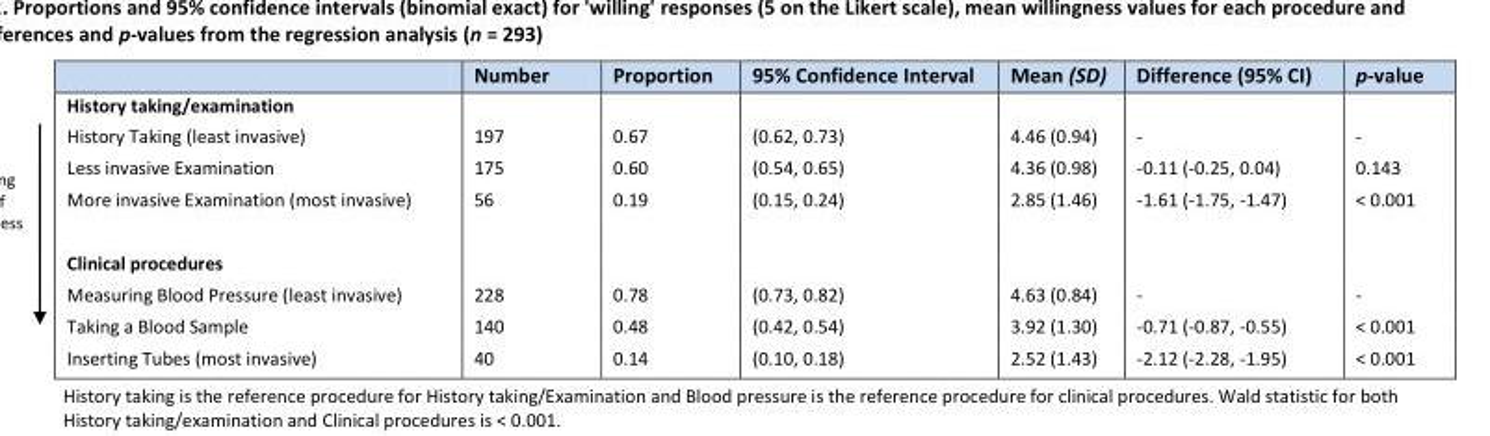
<table><thead><tr><td></td><td>Number</td><td>Proportion</td><td>95% Confidence Interval</td><td>Mean (SD)</td><td>Difference (95% CI)</td><td>p-value</td></tr></thead><tbody><tr><td colspan="7">History taking/examination</td></tr><tr><td>History Taking (least invasive)</td><td>197</td><td>0.67</td><td>(0.62, 0.73)</td><td>4.46 (0.94)</td><td>-</td><td>-</td></tr><tr><td>Less invasive Examination</td><td>175</td><td>0.60</td><td>(0.54, 0.65)</td><td>4.36 (0.98)</td><td>-0.11 (-0.25, 0.04)</td><td>0.143</td></tr><tr><td>More invasive Examination (most invasive)</td><td>56</td><td>0.19</td><td>(0.15, 0.24)</td><td>2.85 (1.46)</td><td>-1.61 (-1.75, -1.47)</td><td>&lt; 0.001</td></tr><tr><td colspan="7">Clinical procedures</td></tr><tr><td>Measuring Blood Pressure (least invasive)</td><td>228</td><td>0.78</td><td>(0.73, 0.82)</td><td>4.63 (0.84)</td><td>-</td><td>-</td></tr><tr><td>Taking a Blood Sample</td><td>140</td><td>0.48</td><td>(0.42, 0.54)</td><td>3.92 (1.30)</td><td>-0.71 (-0.87, -0.55)</td><td>&lt; 0.001</td></tr><tr><td>Inserting Tubes (most invasive)</td><td>40</td><td>0.14</td><td>(0.10, 0.18)</td><td>2.52 (1.43)</td><td>-2.12 (-2.28, -1.95)</td><td>&lt; 0.001</td></tr></tbody></table>